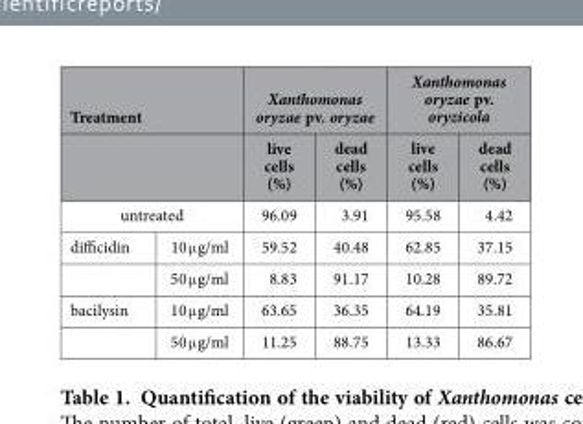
<table><thead><tr><td colspan="2">Treatment</td><td colspan="2">Xanthomonas oryzae pv. oryzae</td><td colspan="2">Xanthomonas oryzae pv. oryzicola</td></tr><tr><td></td><td></td><td>live cells (%)</td><td>dead cells (%)</td><td>live cells (%)</td><td>dead cells (%)</td></tr></thead><tbody><tr><td colspan="2">untreated</td><td>96.09</td><td>3.91</td><td>95.58</td><td>4.42</td></tr><tr><td rowspan="2">difficidin</td><td>10 μ g/ml</td><td>59.52</td><td>40.48</td><td>62.85</td><td>37.15</td></tr><tr><td>50 μ g/ml</td><td>8.83</td><td>91.17</td><td>10.28</td><td>89.72</td></tr><tr><td rowspan="2">bacilysin</td><td>10 μ g/ml</td><td>63.65</td><td>36.35</td><td>64.19</td><td>35.81</td></tr><tr><td>50 μ g/ml</td><td>11.25</td><td>88.75</td><td>13.33</td><td>86.67</td></tr></tbody></table>